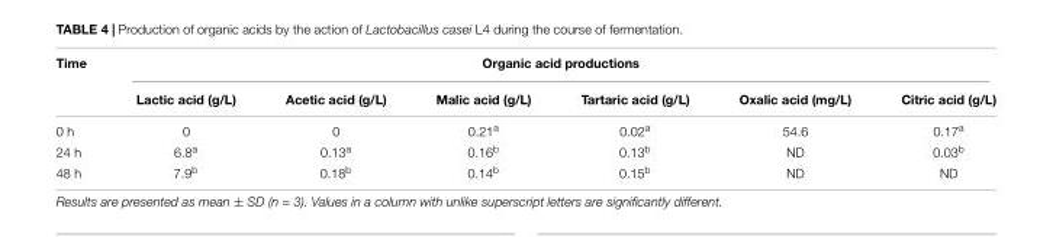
<table><thead><tr><td rowspan="2">Time</td><td colspan="6">Organic acid productions</td></tr><tr><td>Lactic acid (g/L)</td><td>Acetic acid (g/L)</td><td>Malic acid (g/L)</td><td>Tartaric acid (g/L)</td><td>Oxalic acid (mg/L)</td><td>Citric acid (g/L)</td></tr></thead><tbody><tr><td>0 h</td><td>0</td><td>0</td><td>0.21<sup>a</sup></td><td>0.02<sup>a</sup></td><td>54.6</td><td>0.17<sup>a</sup></td></tr><tr><td>24 h</td><td>6.8<sup>a</sup></td><td>0.13<sup>a</sup></td><td>0.16<sup>b</sup></td><td>0.13<sup>b</sup></td><td>ND</td><td>0.03<sup>b</sup></td></tr><tr><td>48 h</td><td>7.9<sup>b</sup></td><td>0.18<sup>b</sup></td><td>0.14<sup>b</sup></td><td>0.15<sup>b</sup></td><td>ND</td><td>ND</td></tr></tbody></table>